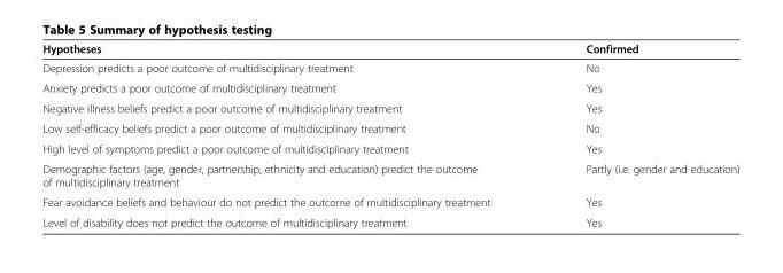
<table><thead><tr><td>Hypotheses</td><td>Confirmed</td></tr></thead><tbody><tr><td>Depression predicts a poor outcome of multidisciplinary treatment</td><td>No</td></tr><tr><td>Anxiety predicts a poor outcome of multidisciplinary treatment</td><td>Yes</td></tr><tr><td>Negative illness beliefs predict a poor outcome of multidisciplinary treatment</td><td>Yes</td></tr><tr><td>Low self-efficacy beliefs predict a poor outcome of multidisciplinary treatment</td><td>No</td></tr><tr><td>High level of symptoms predict a poor outcome of multidisciplinary treatment</td><td>Yes</td></tr><tr><td>Demographic factors (age, gender, partnership, ethnicity and education) predict the outcome of multidisciplinary treatment</td><td>Partly (i.e. gender and education)</td></tr><tr><td>Fear avoidance beliefs and behaviour do not predict the outcome of multidisciplinary treatment</td><td>Yes</td></tr><tr><td>Level of disability does not predict the outcome of multidisciplinary treatment</td><td>Yes</td></tr></tbody></table>